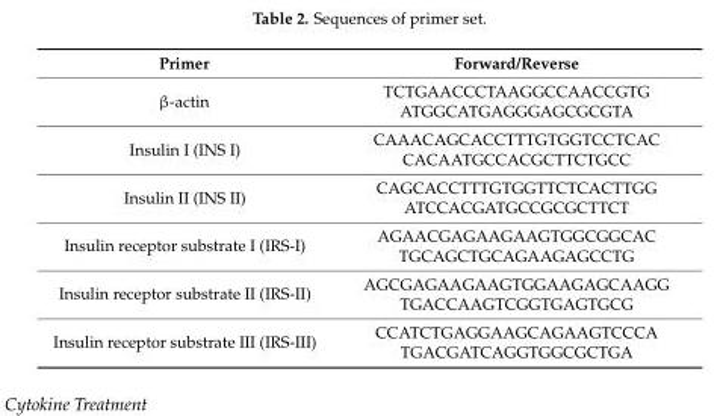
<table><thead><tr><td>Primer</td><td>Forward/Reverse</td></tr></thead><tbody><tr><td rowspan="2">β-actin</td><td>TCTGAACCCTAAGGCCAACCGTG</td></tr><tr><td>ATGGCATGAGGGAGCGCGTA</td></tr><tr><td rowspan="2">Insulin I (INS I)</td><td>CAAACAGCACCTTTGTGGTCCTCAC</td></tr><tr><td>CACAATGCCACGCTTCTGCC</td></tr><tr><td rowspan="2">Insulin II (INS II)</td><td>CAGCACCTTTGTGGTTCTCACTTGG</td></tr><tr><td>ATCCACGATGCCGCGCTTCT</td></tr><tr><td rowspan="2">Insulin receptor substrate I (IRS-I)</td><td>AGAACGAGAAGAAGTGGCGGCAC</td></tr><tr><td>TGCAGCTGCAGAAGAGCCTG</td></tr><tr><td rowspan="2">Insulin receptor substrate II (IRS-II)</td><td>AGCGAGAAGAAGTGGAAGAGCAAGG</td></tr><tr><td>TGACCAAGTCGGTGAGTGCG</td></tr><tr><td rowspan="2">Insulin receptor substrate III (IRS-III)</td><td>CCATCTGAGGAAGCAGAAGTCCCA</td></tr><tr><td>TGACGATCAGGTGGCGCTGA</td></tr></tbody></table>